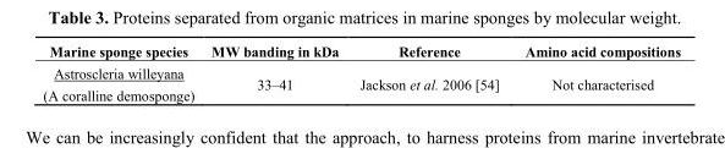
<table><thead><tr><td>Marine sponge species</td><td>MW banding in kDa</td><td>Reference</td><td>Amino acid compositions</td></tr></thead><tbody><tr><td>Astroscleria willeyana (A coralline demosponge)</td><td>33–41</td><td>Jackson et al. 2006 [54]</td><td>Not characterised</td></tr></tbody></table>